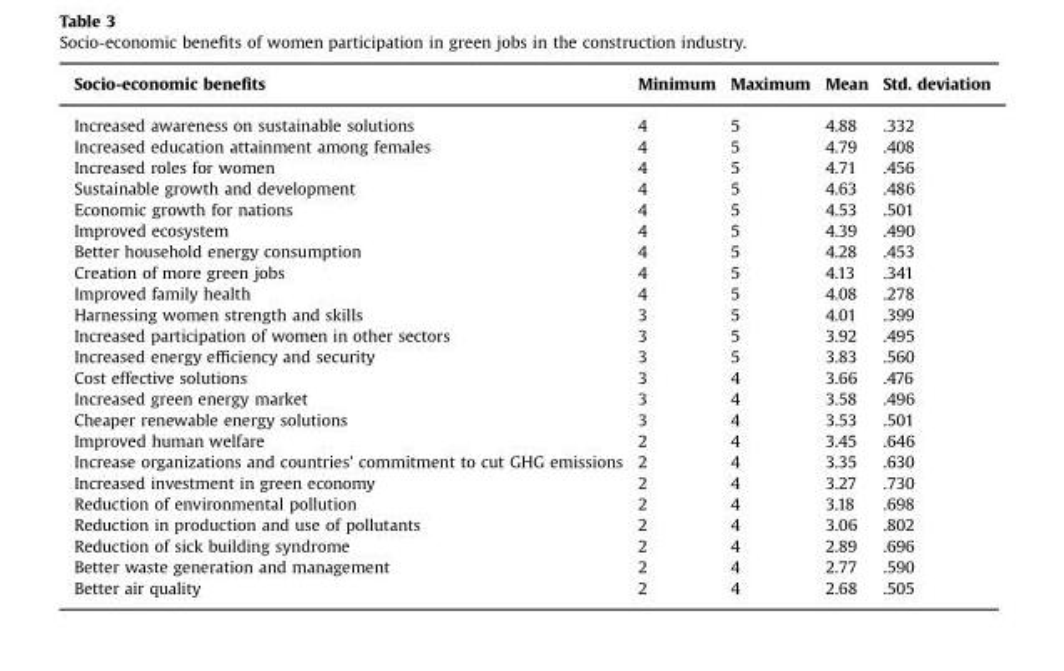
<table><thead><tr><td>Socio-economic benefits</td><td>Minimum</td><td>Maximum</td><td>Mean</td><td>Std. deviation</td></tr></thead><tbody><tr><td>Increased awareness on sustainable solutions</td><td>4</td><td>5</td><td>4.88</td><td>.332</td></tr><tr><td>Increased education attainment among females</td><td>4</td><td>5</td><td>4.79</td><td>.408</td></tr><tr><td>Increased roles for women</td><td>4</td><td>5</td><td>4.71</td><td>.456</td></tr><tr><td>Sustainable growth and development</td><td>4</td><td>5</td><td>4.63</td><td>.486</td></tr><tr><td>Economic growth for nations</td><td>4</td><td>5</td><td>4.53</td><td>.501</td></tr><tr><td>Improved ecosystem</td><td>4</td><td>5</td><td>4.39</td><td>.490</td></tr><tr><td>Better household energy consumption</td><td>4</td><td>5</td><td>4.28</td><td>.453</td></tr><tr><td>Creation of more green jobs</td><td>4</td><td>5</td><td>4.13</td><td>.341</td></tr><tr><td>Improved family health</td><td>4</td><td>5</td><td>4.08</td><td>.278</td></tr><tr><td>Harnessing women strength and skills</td><td>3</td><td>5</td><td>4.01</td><td>.399</td></tr><tr><td>Increased participation of women in other sectors</td><td>3</td><td>5</td><td>3.92</td><td>.495</td></tr><tr><td>Increased energy efficiency and security</td><td>3</td><td>5</td><td>3.83</td><td>.560</td></tr><tr><td>Cost effective solutions</td><td>3</td><td>4</td><td>3.66</td><td>.476</td></tr><tr><td>Increased green energy market</td><td>3</td><td>4</td><td>3.58</td><td>.496</td></tr><tr><td>Cheaper renewable energy solutions</td><td>3</td><td>4</td><td>3.53</td><td>.501</td></tr><tr><td>Improved human welfare</td><td>2</td><td>4</td><td>3.45</td><td>.646</td></tr><tr><td>Increase organizations and countries’ commitment to cut GHG emissions</td><td>2</td><td>4</td><td>3.35</td><td>.630</td></tr><tr><td>Increased investment in green economy</td><td>2</td><td>4</td><td>3.27</td><td>.730</td></tr><tr><td>Reduction of environmental pollution</td><td>2</td><td>4</td><td>3.18</td><td>.698</td></tr><tr><td>Reduction in production and use of pollutants</td><td>2</td><td>4</td><td>3.06</td><td>.802</td></tr><tr><td>Reduction of sick building syndrome</td><td>2</td><td>4</td><td>2.89</td><td>.696</td></tr><tr><td>Better waste generation and management</td><td>2</td><td>4</td><td>2.77</td><td>.590</td></tr><tr><td>Better air quality</td><td>2</td><td>4</td><td>2.68</td><td>.505</td></tr></tbody></table>